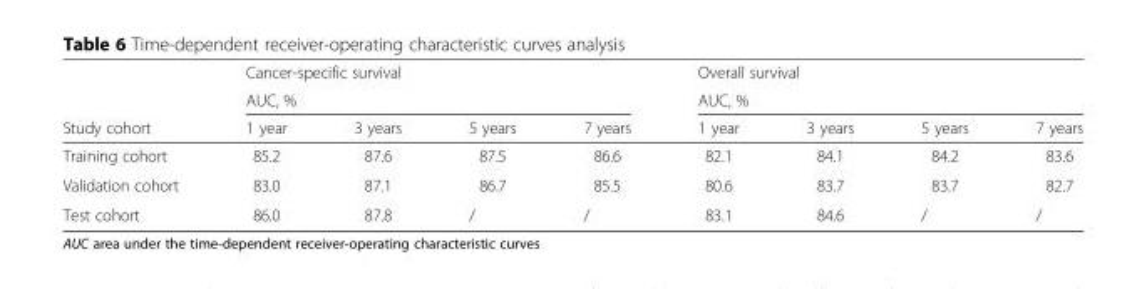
<table><thead><tr><td rowspan="3">Study cohort</td><td rowspan="2" colspan="4">Cancer-specific survival AUC, %</td><td rowspan="2" colspan="4">Overall survival AUC, %</td></tr><tr></tr><tr><td>1 year</td><td>3 years</td><td>5 years</td><td>7 years</td><td>1 year</td><td>3 years</td><td>5 years</td><td>7 years</td></tr></thead><tbody><tr><td>Training cohort</td><td>85.2</td><td>87.6</td><td>87.5</td><td>86.6</td><td>82.1</td><td>84.1</td><td>84.2</td><td>83.6</td></tr><tr><td>Validation cohort</td><td>83.0</td><td>87.1</td><td>86.7</td><td>85.5</td><td>80.6</td><td>83.7</td><td>83.7</td><td>82.7</td></tr><tr><td>Test cohort</td><td>86.0</td><td>87.8</td><td>/</td><td>/</td><td>83.1</td><td>84.6</td><td>/</td><td>/</td></tr></tbody></table>